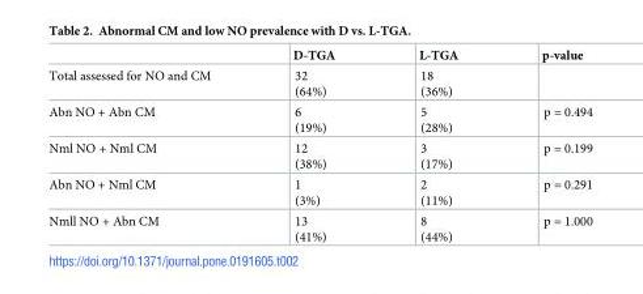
<table><thead><tr><td></td><td>D-TGA</td><td>L-TGA</td><td>p-value</td></tr></thead><tbody><tr><td>Total assessed for NO and CM</td><td>32 (64%)</td><td>18 (36%)</td><td></td></tr><tr><td>Abn NO + Abn CM</td><td>6 (19%)</td><td>5 (28%)</td><td>p = 0.494</td></tr><tr><td>Nml NO + Nml CM</td><td>12 (38%)</td><td>3 (17%)</td><td>p = 0.199</td></tr><tr><td>Abn NO + Nml CM</td><td>1 (3%)</td><td>2 (11%)</td><td>p = 0.291</td></tr><tr><td>Nmll NO + Abn CM</td><td>13 (41%)</td><td>8 (44%)</td><td>p = 1.000</td></tr></tbody></table>